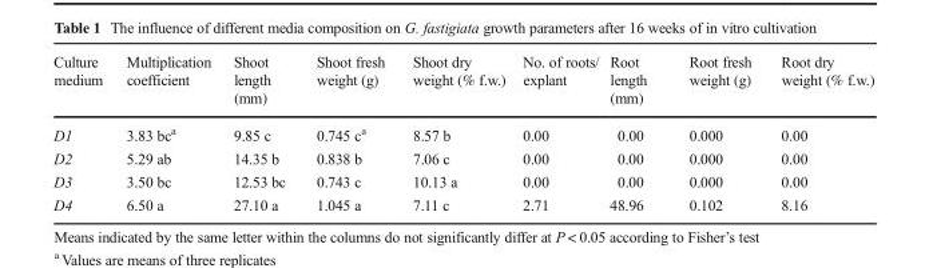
<table><thead><tr><td>Culture medium</td><td>Multiplication coefficient</td><td>Shoot length (mm)</td><td>Shoot fresh weight (g)</td><td>Shoot dry weight (% f.w.)</td><td>No. of roots/ explant</td><td>Root length (mm)</td><td>Root fresh weight (g)</td><td>Root dry weight (% f.w.)</td></tr></thead><tbody><tr><td>D1</td><td>3.83 bc<sup>a</sup></td><td>9.85 c</td><td>0.745 c<sup>a</sup></td><td>8.57 b</td><td>0.00</td><td>0.00</td><td>0.000</td><td>0.00</td></tr><tr><td>D2</td><td>5.29 ab</td><td>14.35 b</td><td>0.838 b</td><td>7.06 c</td><td>0.00</td><td>0.00</td><td>0.000</td><td>0.00</td></tr><tr><td>D3</td><td>3.50 bc</td><td>12.53 bc</td><td>0.743 c</td><td>10.13 a</td><td>0.00</td><td>0.00</td><td>0.000</td><td>0.00</td></tr><tr><td>D4</td><td>6.50 a</td><td>27.10 a</td><td>1.045 a</td><td>7.11 c</td><td>2.71</td><td>48.96</td><td>0.102</td><td>8.16</td></tr></tbody></table>